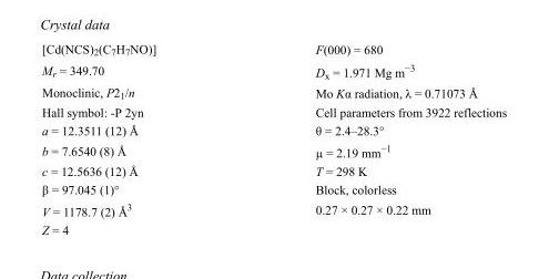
<table><tbody><tr><td>[Cd(NCS)<sub>2</sub>(C<sub>7</sub>H<sub>7</sub>NO)]</td><td>F(000) = 680</td></tr><tr><td>M<sub>r</sub> = 349.70</td><td>D<sub>x</sub> = 1.971 Mg m<sup>−3</sup></td></tr><tr><td>Monoclinic, P2<sub>1</sub>/n</td><td>Mo Kα radiation, λ = 0.71073 Å</td></tr><tr><td>Hall symbol: -P 2yn</td><td>Cell parameters from 3922 reflections</td></tr><tr><td>a = 12.3511 (12) Å</td><td>θ = 2.4–28.3°</td></tr><tr><td>b = 7.6540 (8) Å</td><td>µ = 2.19 mm<sup>−1</sup></td></tr><tr><td>c = 12.5636 (12) Å</td><td>T = 298 K</td></tr><tr><td>β = 97.045 (1)°</td><td>Block, colorless</td></tr><tr><td>V = 1178.7 (2) Å<sup>3</sup></td><td>0.27 × 0.27 × 0.22 mm</td></tr><tr><td>Z = 4</td><td></td></tr></tbody></table>